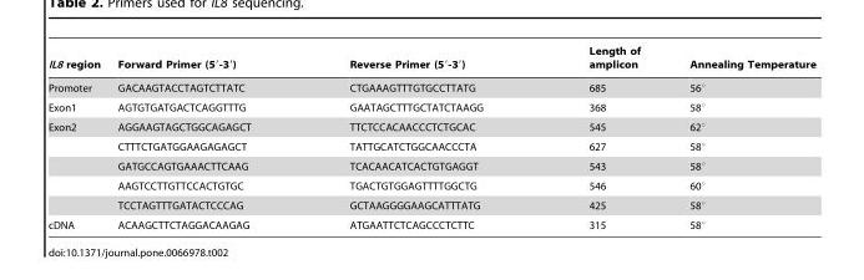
<table><thead><tr><td>IL8 region</td><td>Forward Primer (5′-3′)</td><td>Reverse Primer (5′-3′)</td><td>Length of amplicon</td><td>Annealing Temperature</td></tr></thead><tbody><tr><td>Promoter</td><td>GACAAGTACCTAGTCTTATC</td><td>CTGAAAGTTTGTGCCTTATG</td><td>685</td><td>56°</td></tr><tr><td>Exon1</td><td>AGTGTGATGACTCAGGTTTG</td><td>GAATAGCTTTGCTATCTAAGG</td><td>368</td><td>58°</td></tr><tr><td rowspan="5">Exon2</td><td>AGGAAGTAGCTGGCAGAGCT</td><td>TTCTCCACAACCCTCTGCAC</td><td>545</td><td>62°</td></tr><tr><td>CTTTCTGATGGAAGAGAGCT</td><td>TATTGCATCTGGCAACCCTA</td><td>627</td><td>58°</td></tr><tr><td>GATGCCAGTGAAACTTCAAG</td><td>TCACAACATCACTGTGAGGT</td><td>543</td><td>58°</td></tr><tr><td>AAGTCCTTGTTCCACTGTGC</td><td>TGACTGTGGAGTTTTGGCTG</td><td>546</td><td>60°</td></tr><tr><td>TCCTAGTTTGATACTCCCAG</td><td>GCTAAGGGGAAGCATTTATG</td><td>425</td><td>58°</td></tr><tr><td>cDNA</td><td>ACAAGCTTCTAGGACAAGAG</td><td>ATGAATTCTCAGCCCTCTTC</td><td>315</td><td>58°</td></tr></tbody></table>